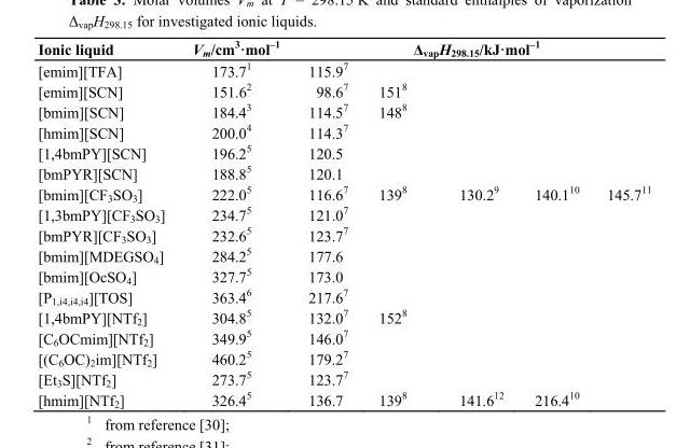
<table><thead><tr><td rowspan="2">Ionic liquid [emim][TFA]</td><td rowspan="2">V<sub>m</sub>/cm<sup>3</sup>·mol<sup>–1</sup> 173.7<sup>1</sup></td><td colspan="5">Δ<sub>vap</sub>H<sub>298.15</sub>/kJ·mol<sup>–1</sup></td></tr><tr><td>115.9<sup>7</sup></td><td></td><td></td><td></td><td></td></tr></thead><tbody><tr><td>[emim][SCN]</td><td>151.6<sup>2</sup></td><td>98.6<sup>7</sup></td><td>151<sup>8</sup></td><td></td><td></td><td></td></tr><tr><td>[bmim][SCN]</td><td>184.4<sup>3</sup></td><td>114.5<sup>7</sup></td><td>148<sup>8</sup></td><td></td><td></td><td></td></tr><tr><td>[hmim][SCN]</td><td>200.0<sup>4</sup></td><td>114.3<sup>7</sup></td><td></td><td></td><td></td><td></td></tr><tr><td>[1,4bmPY][SCN]</td><td>196.2<sup>5</sup></td><td>120.5</td><td></td><td></td><td></td><td></td></tr><tr><td>[bmPYR][SCN]</td><td>188.8<sup>5</sup></td><td>120.1</td><td></td><td></td><td></td><td></td></tr><tr><td>[bmim][CF<sub>3</sub>SO<sub>3</sub>]</td><td>222.0<sup>5</sup></td><td>116.6<sup>7</sup></td><td>139<sup>8</sup></td><td>130.2<sup>9</sup></td><td>140.1<sup>10</sup></td><td>145.7<sup>11</sup></td></tr><tr><td>[1,3bmPY][CF<sub>3</sub>SO<sub>3</sub>]</td><td>234.7<sup>5</sup></td><td>121.0<sup>7</sup></td><td></td><td></td><td></td><td></td></tr><tr><td>[bmPYR][CF<sub>3</sub>SO<sub>3</sub>]</td><td>232.6<sup>5</sup></td><td>123.7<sup>7</sup></td><td></td><td></td><td></td><td></td></tr><tr><td>[bmim][MDEGSO<sub>4</sub>]</td><td>284.2<sup>5</sup></td><td>177.6</td><td></td><td></td><td></td><td></td></tr><tr><td>[bmim][OcSO<sub>4</sub>]</td><td>327.7<sup>5</sup></td><td>173.0</td><td></td><td></td><td></td><td></td></tr><tr><td>[P<sub>1,i4,i4,i4</sub>][TOS]</td><td>363.4<sup>6</sup></td><td>217.6<sup>7</sup></td><td></td><td></td><td></td><td></td></tr><tr><td>[1,4bmPY][NTf<sub>2</sub>]</td><td>304.8<sup>5</sup></td><td>132.0<sup>7</sup></td><td>152<sup>8</sup></td><td></td><td></td><td></td></tr><tr><td>[C<sub>6</sub>OCmim][NTf<sub>2</sub>]</td><td>349.9<sup>5</sup></td><td>146.0<sup>7</sup></td><td></td><td></td><td></td><td></td></tr><tr><td>[(C<sub>6</sub>OC)<sub>2</sub>im][NTf<sub>2</sub>]</td><td>460.2<sup>5</sup></td><td>179.2<sup>7</sup></td><td></td><td></td><td></td><td></td></tr><tr><td>[Et<sub>3</sub>S][NTf<sub>2</sub>]</td><td>273.7<sup>5</sup></td><td>123.7<sup>7</sup></td><td></td><td></td><td></td><td></td></tr><tr><td>[hmim][NTf<sub>2</sub>]</td><td>326.4<sup>5</sup></td><td>136.7</td><td>139<sup>8</sup></td><td>141.6<sup>12</sup></td><td>216.4<sup>10</sup></td><td></td></tr></tbody></table>